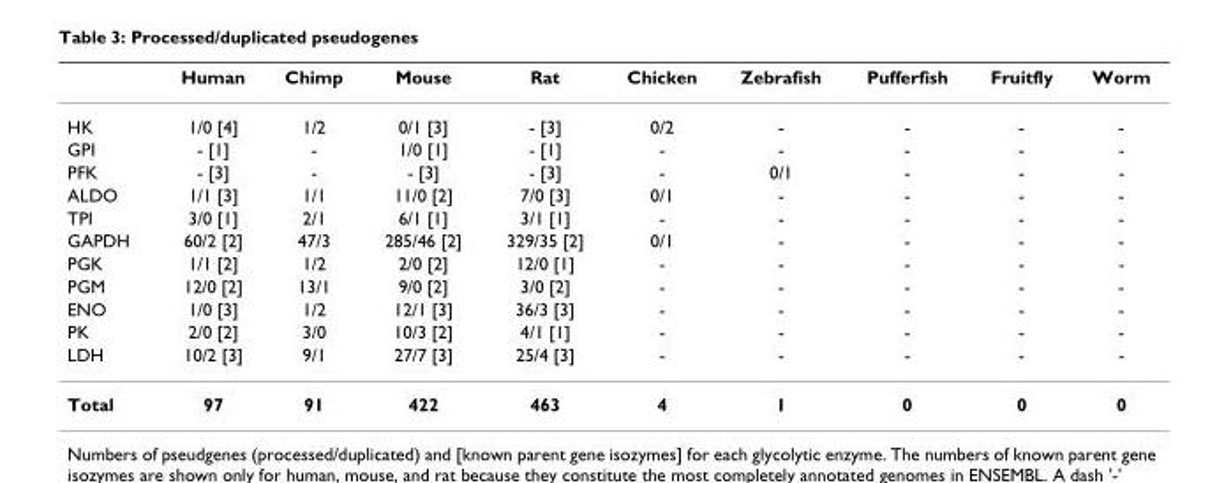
<table><thead><tr><td></td><td>Human</td><td>Chimp</td><td>Mouse</td><td>Rat</td><td>Chicken</td><td>Zebrafish</td><td>Pufferfish</td><td>Fruitfly</td><td>Worm</td></tr></thead><tbody><tr><td>HK</td><td>1/0 [4]</td><td>1/2</td><td>0/1 [3]</td><td>- [3]</td><td>0/2</td><td>-</td><td>-</td><td>-</td><td>-</td></tr><tr><td>GPI</td><td>- [1]</td><td>-</td><td>1/0 [1]</td><td>- [1]</td><td>-</td><td>-</td><td>-</td><td>-</td><td>-</td></tr><tr><td>PFK</td><td>- [3]</td><td>-</td><td>- [3]</td><td>- [3]</td><td>-</td><td>0/1</td><td>-</td><td>-</td><td>-</td></tr><tr><td>ALDO</td><td>1/1 [3]</td><td>1/1</td><td>11/0 [2]</td><td>7/0 [3]</td><td>0/1</td><td>-</td><td>-</td><td>-</td><td>-</td></tr><tr><td>TPI</td><td>3/0 [1]</td><td>2/1</td><td>6/1 [1]</td><td>3/1 [1]</td><td>-</td><td>-</td><td>-</td><td>-</td><td>-</td></tr><tr><td>GAPDH</td><td>60/2 [2]</td><td>47/3</td><td>285/46 [2]</td><td>329/35 [2]</td><td>0/1</td><td>-</td><td>-</td><td>-</td><td>-</td></tr><tr><td>PGK</td><td>1/1 [2]</td><td>1/2</td><td>2/0 [2]</td><td>12/0 [1]</td><td>-</td><td>-</td><td>-</td><td>-</td><td>-</td></tr><tr><td>PGM</td><td>12/0 [2]</td><td>13/1</td><td>9/0 [2]</td><td>3/0 [2]</td><td>-</td><td>-</td><td>-</td><td>-</td><td>-</td></tr><tr><td>ENO</td><td>1/0 [3]</td><td>1/2</td><td>12/1 [3]</td><td>36/3 [3]</td><td>-</td><td>-</td><td>-</td><td>-</td><td>-</td></tr><tr><td>PK</td><td>2/0 [2]</td><td>3/0</td><td>10/3 [2]</td><td>4/1 [1]</td><td>-</td><td>-</td><td>-</td><td>-</td><td>-</td></tr><tr><td>LDH</td><td>10/2 [3]</td><td>9/1</td><td>27/7 [3]</td><td>25/4 [3]</td><td>-</td><td>-</td><td>-</td><td>-</td><td>-</td></tr><tr><td>Total</td><td>97</td><td>91</td><td>422</td><td>463</td><td>4</td><td>1</td><td>0</td><td>0</td><td>0</td></tr></tbody></table>